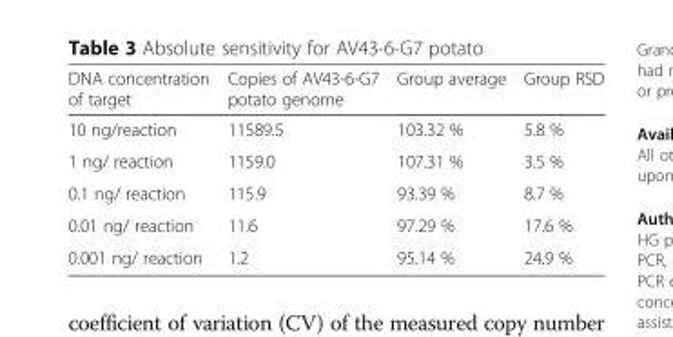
<table><thead><tr><td>DNA concentration of target</td><td>Copies of AV43-6-G7 potato genome</td><td>Group average</td><td>Group RSD</td></tr></thead><tbody><tr><td>10 ng/reaction</td><td>11589.5</td><td>103.32 %</td><td>5.8 %</td></tr><tr><td>1 ng/ reaction</td><td>1159.0</td><td>107.31 %</td><td>3.5 %</td></tr><tr><td>0.1 ng/ reaction</td><td>115.9</td><td>93.39 %</td><td>8.7 %</td></tr><tr><td>0.01 ng/ reaction</td><td>11.6</td><td>97.29 %</td><td>17.6 %</td></tr><tr><td>0.001 ng/ reaction</td><td>1.2</td><td>95.14 %</td><td>24.9 %</td></tr></tbody></table>